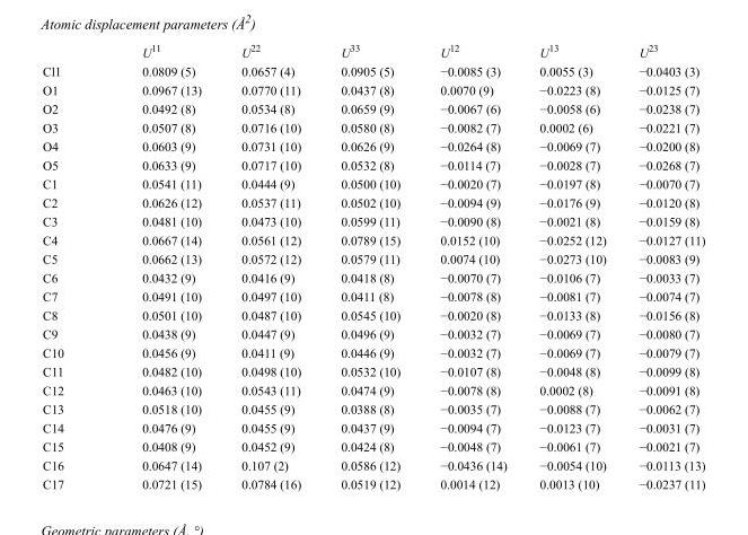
<table><thead><tr><td></td><td>U<sup>11</sup></td><td>U<sup>22</sup></td><td>U<sup>33</sup></td><td>U<sup>12</sup></td><td>U<sup>13</sup></td><td>U<sup>23</sup></td></tr></thead><tbody><tr><td>Cl1</td><td>0.0809 (5)</td><td>0.0657 (4)</td><td>0.0905 (5)</td><td>−0.0085 (3)</td><td>0.0055 (3)</td><td>−0.0403 (3)</td></tr><tr><td>O1</td><td>0.0967 (13)</td><td>0.0770 (11)</td><td>0.0437 (8)</td><td>0.0070 (9)</td><td>−0.0223 (8)</td><td>−0.0125 (7)</td></tr><tr><td>O2</td><td>0.0492 (8)</td><td>0.0534 (8)</td><td>0.0659 (9)</td><td>−0.0067 (6)</td><td>−0.0058 (6)</td><td>−0.0238 (7)</td></tr><tr><td>O3</td><td>0.0507 (8)</td><td>0.0716 (10)</td><td>0.0580 (8)</td><td>−0.0082 (7)</td><td>0.0002 (6)</td><td>−0.0221 (7)</td></tr><tr><td>O4</td><td>0.0603 (9)</td><td>0.0731 (10)</td><td>0.0626 (9)</td><td>−0.0264 (8)</td><td>−0.0069 (7)</td><td>−0.0200 (8)</td></tr><tr><td>O5</td><td>0.0633 (9)</td><td>0.0717 (10)</td><td>0.0532 (8)</td><td>−0.0114 (7)</td><td>−0.0028 (7)</td><td>−0.0268 (7)</td></tr><tr><td>C1</td><td>0.0541 (11)</td><td>0.0444 (9)</td><td>0.0500 (10)</td><td>−0.0020 (7)</td><td>−0.0197 (8)</td><td>−0.0070 (7)</td></tr><tr><td>C2</td><td>0.0626 (12)</td><td>0.0537 (11)</td><td>0.0502 (10)</td><td>−0.0094 (9)</td><td>−0.0176 (9)</td><td>−0.0120 (8)</td></tr><tr><td>C3</td><td>0.0481 (10)</td><td>0.0473 (10)</td><td>0.0599 (11)</td><td>−0.0090 (8)</td><td>−0.0021 (8)</td><td>−0.0159 (8)</td></tr><tr><td>C4</td><td>0.0667 (14)</td><td>0.0561 (12)</td><td>0.0789 (15)</td><td>0.0152 (10)</td><td>−0.0252 (12)</td><td>−0.0127 (11)</td></tr><tr><td>C5</td><td>0.0662 (13)</td><td>0.0572 (12)</td><td>0.0579 (11)</td><td>0.0074 (10)</td><td>−0.0273 (10)</td><td>−0.0083 (9)</td></tr><tr><td>C6</td><td>0.0432 (9)</td><td>0.0416 (9)</td><td>0.0418 (8)</td><td>−0.0070 (7)</td><td>−0.0106 (7)</td><td>−0.0033 (7)</td></tr><tr><td>C7</td><td>0.0491 (10)</td><td>0.0497 (10)</td><td>0.0411 (8)</td><td>−0.0078 (8)</td><td>−0.0081 (7)</td><td>−0.0074 (7)</td></tr><tr><td>C8</td><td>0.0501 (10)</td><td>0.0487 (10)</td><td>0.0545 (10)</td><td>−0.0020 (8)</td><td>−0.0133 (8)</td><td>−0.0156 (8)</td></tr><tr><td>C9</td><td>0.0438 (9)</td><td>0.0447 (9)</td><td>0.0496 (9)</td><td>−0.0032 (7)</td><td>−0.0069 (7)</td><td>−0.0080 (7)</td></tr><tr><td>C10</td><td>0.0456 (9)</td><td>0.0411 (9)</td><td>0.0446 (9)</td><td>−0.0032 (7)</td><td>−0.0069 (7)</td><td>−0.0079 (7)</td></tr><tr><td>C11</td><td>0.0482 (10)</td><td>0.0498 (10)</td><td>0.0532 (10)</td><td>−0.0107 (8)</td><td>−0.0048 (8)</td><td>−0.0099 (8)</td></tr><tr><td>C12</td><td>0.0463 (10)</td><td>0.0543 (11)</td><td>0.0474 (9)</td><td>−0.0078 (8)</td><td>0.0002 (8)</td><td>−0.0091 (8)</td></tr><tr><td>C13</td><td>0.0518 (10)</td><td>0.0455 (9)</td><td>0.0388 (8)</td><td>−0.0035 (7)</td><td>−0.0088 (7)</td><td>−0.0062 (7)</td></tr><tr><td>C14</td><td>0.0476 (9)</td><td>0.0455 (9)</td><td>0.0437 (9)</td><td>−0.0094 (7)</td><td>−0.0123 (7)</td><td>−0.0031 (7)</td></tr><tr><td>C15</td><td>0.0408 (9)</td><td>0.0452 (9)</td><td>0.0424 (8)</td><td>−0.0048 (7)</td><td>−0.0061 (7)</td><td>−0.0021 (7)</td></tr><tr><td>C16</td><td>0.0647 (14)</td><td>0.107 (2)</td><td>0.0586 (12)</td><td>−0.0436 (14)</td><td>−0.0054 (10)</td><td>−0.0113 (13)</td></tr><tr><td>C17</td><td>0.0721 (15)</td><td>0.0784 (16)</td><td>0.0519 (12)</td><td>0.0014 (12)</td><td>0.0013 (10)</td><td>−0.0237 (11)</td></tr></tbody></table>